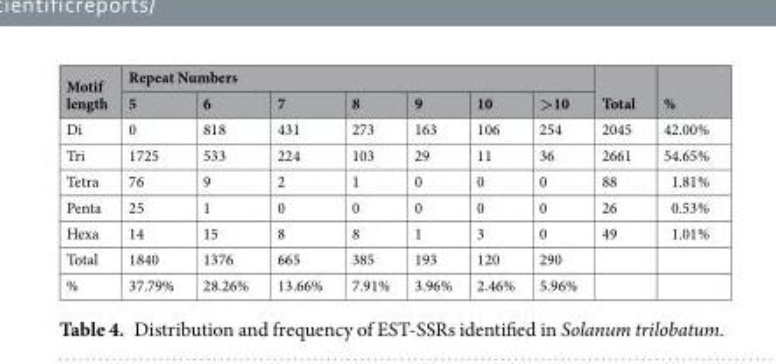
<table><thead><tr><td rowspan="2">Motif length</td><td colspan="7">Repeat Numbers</td><td rowspan="2">Total</td><td rowspan="2">%</td></tr><tr><td>5</td><td>6</td><td>7</td><td>8</td><td>9</td><td>10</td><td>&gt;10</td></tr></thead><tbody><tr><td>Di</td><td>0</td><td>818</td><td>431</td><td>273</td><td>163</td><td>106</td><td>254</td><td>2045</td><td>42.00%</td></tr><tr><td>Tri</td><td>1725</td><td>533</td><td>224</td><td>103</td><td>29</td><td>11</td><td>36</td><td>2661</td><td>54.65%</td></tr><tr><td>Tetra</td><td>76</td><td>9</td><td>2</td><td>1</td><td>0</td><td>0</td><td>0</td><td>88</td><td>1.81%</td></tr><tr><td>Penta</td><td>25</td><td>1</td><td>0</td><td>0</td><td>0</td><td>0</td><td>0</td><td>26</td><td>0.53%</td></tr><tr><td>Hexa</td><td>14</td><td>15</td><td>8</td><td>8</td><td>1</td><td>3</td><td>0</td><td>49</td><td>1.01%</td></tr><tr><td>Total</td><td>1840</td><td>1376</td><td>665</td><td>385</td><td>193</td><td>120</td><td>290</td><td></td><td></td></tr><tr><td>%</td><td>37.79%</td><td>28.26%</td><td>13.66%</td><td>7.91%</td><td>3.96%</td><td>2.46%</td><td>5.96%</td><td></td><td></td></tr></tbody></table>